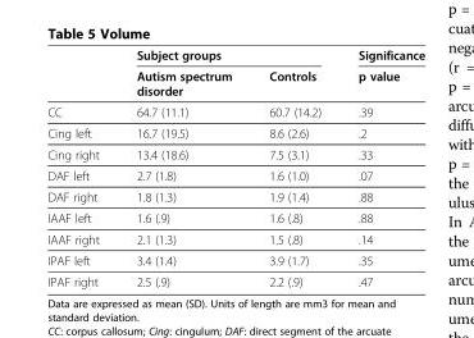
<table><thead><tr><td rowspan="2"></td><td colspan="2">Subject groups</td><td rowspan="2">Significance p value</td></tr><tr><td>Autism spectrum disorder</td><td>Controls</td></tr></thead><tbody><tr><td>CC</td><td>64.7 (11.1)</td><td>60.7 (14.2)</td><td>.39</td></tr><tr><td>Cing left</td><td>16.7 (19.5)</td><td>8.6 (2.6)</td><td>.2</td></tr><tr><td>Cing right</td><td>13.4 (18.6)</td><td>7.5 (3.1)</td><td>.33</td></tr><tr><td>DAF left</td><td>2.7 (1.8)</td><td>1.6 (1.0)</td><td>.07</td></tr><tr><td>DAF right</td><td>1.8 (1.3)</td><td>1.9 (1.4)</td><td>.88</td></tr><tr><td>IAAF left</td><td>1.6 (.9)</td><td>1.6 (.8)</td><td>.88</td></tr><tr><td>IAAF right</td><td>2.1 (1.3)</td><td>1.5 (.8)</td><td>.14</td></tr><tr><td>IPAF left</td><td>3.4 (1.4)</td><td>3.9 (1.7)</td><td>.35</td></tr><tr><td>IPAF right</td><td>2.5 (.9)</td><td>2.2 (.9)</td><td>.47</td></tr></tbody></table>